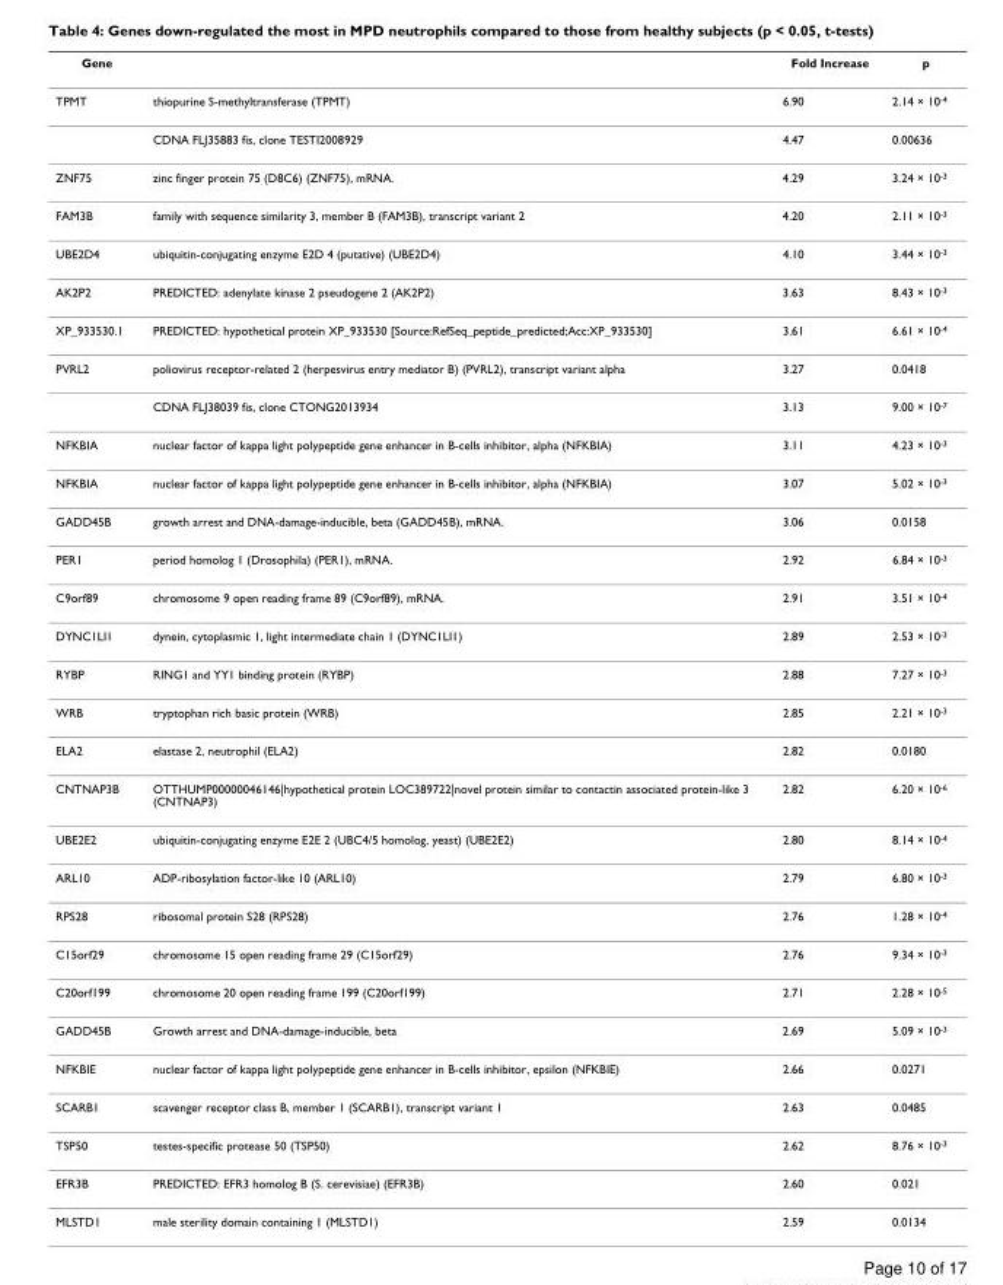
<table><thead><tr><td>Gene</td><td></td><td>Fold Increase</td><td>p</td></tr></thead><tbody><tr><td rowspan="2">TPMT</td><td>thiopurine S-methyltransferase (TPMT)</td><td>6.90</td><td>2.14 × 10<sup>-4</sup></td></tr><tr><td>CDNA FLJ35883 fis, clone TESTI2008929</td><td>4.47</td><td>0.00636</td></tr><tr><td>ZNF75</td><td>zinc finger protein 75 (D8C6) (ZNF75), mRNA.</td><td>4.29</td><td>3.24 × 10<sup>-3</sup></td></tr><tr><td>FAM3B</td><td>family with sequence similarity 3, member B (FAM3B), transcript variant 2</td><td>4.20</td><td>2.11 × 10<sup>-3</sup></td></tr><tr><td>UBE2D4</td><td>ubiquitin-conjugating enzyme E2D 4 (putative) (UBE2D4)</td><td>4.10</td><td>3.44 × 10<sup>-3</sup></td></tr><tr><td>AK2P2</td><td>PREDICTED: adenylate kinase 2 pseudogene 2 (AK2P2)</td><td>3.63</td><td>8.43 × 10<sup>-3</sup></td></tr><tr><td>XP_933530.1</td><td>PREDICTED: hypothetical protein XP_933530 [Source:RefSeq_peptide_predicted;Acc:XP_933530]</td><td>3.61</td><td>6.61 × 10<sup>-4</sup></td></tr><tr><td rowspan="2">PVRL2</td><td>poliovirus receptor-related 2 (herpesvirus entry mediator B) (PVRL2), transcript variant alpha</td><td>3.27</td><td>0.0418</td></tr><tr><td>CDNA FLJ38039 fis, clone CTONG2013934</td><td>3.13</td><td>9.00 × 10<sup>-7</sup></td></tr><tr><td>NFKBIA</td><td>nuclear factor of kappa light polypeptide gene enhancer in B-cells inhibitor, alpha (NFKBIA)</td><td>3.11</td><td>4.23 × 10<sup>-3</sup></td></tr><tr><td>NFKBIA</td><td>nuclear factor of kappa light polypeptide gene enhancer in B-cells inhibitor, alpha (NFKBIA)</td><td>3.07</td><td>5.02 × 10<sup>-3</sup></td></tr><tr><td>GADD45B</td><td>growth arrest and DNA-damage-inducible, beta (GADD45B), mRNA.</td><td>3.06</td><td>0.0158</td></tr><tr><td>PER1</td><td>period homolog 1 (Drosophila) (PER1), mRNA.</td><td>2.92</td><td>6.84 × 10<sup>-3</sup></td></tr><tr><td>C9orf89</td><td>chromosome 9 open reading frame 89 (C9orf89), mRNA.</td><td>2.91</td><td>3.51 × 10<sup>-4</sup></td></tr><tr><td>DYNC1LI1</td><td>dynein, cytoplasmic 1, light intermediate chain 1 (DYNC1LI1)</td><td>2.89</td><td>2.53 × 10<sup>-3</sup></td></tr><tr><td>RYBP</td><td>RING1 and YY1 binding protein (RYBP)</td><td>2.88</td><td>7.27 × 10<sup>-3</sup></td></tr><tr><td>WRB</td><td>tryptophan rich basic protein (WRB)</td><td>2.85</td><td>2.21 × 10<sup>-3</sup></td></tr><tr><td>ELA2</td><td>elastase 2, neutrophil (ELA2)</td><td>2.82</td><td>0.0180</td></tr><tr><td>CNTNAP3B</td><td>OTTHUMP00000046146|hypothetical protein LOC389722|novel protein similar to contactin associated protein-like 3 (CNTNAP3)</td><td>2.82</td><td>6.20 × 10<sup>-6</sup></td></tr><tr><td>UBE2E2</td><td>ubiquitin-conjugating enzyme E2E 2 (UBC4/5 homolog, yeast) (UBE2E2)</td><td>2.80</td><td>8.14 × 10<sup>-4</sup></td></tr><tr><td>ARL10</td><td>ADP-ribosylation factor-like 10 (ARL10)</td><td>2.79</td><td>6.80 × 10<sup>-3</sup></td></tr><tr><td>RPS28</td><td>ribosomal protein S28 (RPS28)</td><td>2.76</td><td>1.28 × 10<sup>-4</sup></td></tr><tr><td>C15orf29</td><td>chromosome 15 open reading frame 29 (C15orf29)</td><td>2.76</td><td>9.34 × 10<sup>-3</sup></td></tr><tr><td>C20orf199</td><td>chromosome 20 open reading frame 199 (C20orf199)</td><td>2.71</td><td>2.28 × 10<sup>-5</sup></td></tr><tr><td>GADD45B</td><td>Growth arrest and DNA-damage-inducible, beta</td><td>2.69</td><td>5.09 × 10<sup>-3</sup></td></tr><tr><td>NFKBIE</td><td>nuclear factor of kappa light polypeptide gene enhancer in B-cells inhibitor, epsilon (NFKBIE)</td><td>2.66</td><td>0.0271</td></tr><tr><td>SCARB1</td><td>scavenger receptor class B, member 1 (SCARB1), transcript variant 1</td><td>2.63</td><td>0.0485</td></tr><tr><td>TSP50</td><td>testes-specific protease 50 (TSP50)</td><td>2.62</td><td>8.76 × 10<sup>-3</sup></td></tr><tr><td>EFR3B</td><td>PREDICTED: EFR3 homolog B (S. cerevisiae) (EFR3B)</td><td>2.60</td><td>0.021</td></tr><tr><td>MLSTD1</td><td>male sterility domain containing 1 (MLSTD1)</td><td>2.59</td><td>0.0134</td></tr></tbody></table>